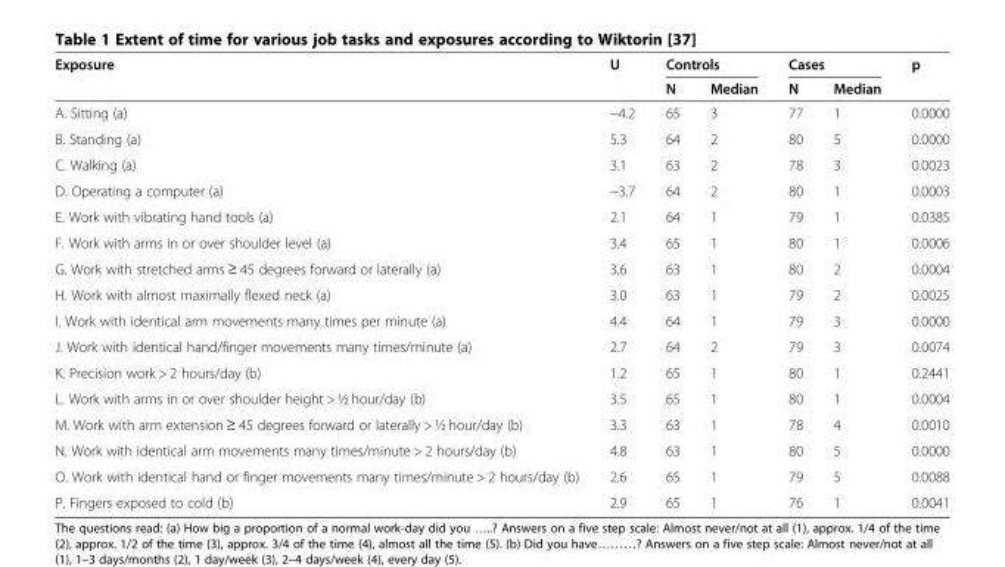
<table><thead><tr><td rowspan="2">Exposure</td><td rowspan="2">U</td><td colspan="2">Controls</td><td colspan="2">Cases</td><td rowspan="2">p</td></tr><tr><td>N</td><td>Median</td><td>N</td><td>Median</td></tr></thead><tbody><tr><td>A. Sitting (a)</td><td>−4.2</td><td>65</td><td>3</td><td>77</td><td>1</td><td>0.0000</td></tr><tr><td>B. Standing (a)</td><td>5.3</td><td>64</td><td>2</td><td>80</td><td>5</td><td>0.0000</td></tr><tr><td>C. Walking (a)</td><td>3.1</td><td>63</td><td>2</td><td>78</td><td>3</td><td>0.0023</td></tr><tr><td>D. Operating a computer (a)</td><td>−3.7</td><td>64</td><td>2</td><td>80</td><td>1</td><td>0.0003</td></tr><tr><td>E. Work with vibrating hand tools (a)</td><td>2.1</td><td>64</td><td>1</td><td>79</td><td>1</td><td>0.0385</td></tr><tr><td>F. Work with arms in or over shoulder level (a)</td><td>3.4</td><td>65</td><td>1</td><td>80</td><td>1</td><td>0.0006</td></tr><tr><td>G. Work with stretched arms ≥ 45 degrees forward or laterally (a)</td><td>3.6</td><td>63</td><td>1</td><td>80</td><td>2</td><td>0.0004</td></tr><tr><td>H. Work with almost maximally flexed neck (a)</td><td>3.0</td><td>63</td><td>1</td><td>79</td><td>2</td><td>0.0025</td></tr><tr><td>I. Work with identical arm movements many times per minute (a)</td><td>4.4</td><td>64</td><td>1</td><td>79</td><td>3</td><td>0.0000</td></tr><tr><td>J. Work with identical hand/finger movements many times/minute (a)</td><td>2.7</td><td>64</td><td>2</td><td>79</td><td>3</td><td>0.0074</td></tr><tr><td>K. Precision work &gt; 2 hours/day (b)</td><td>1.2</td><td>65</td><td>1</td><td>80</td><td>1</td><td>0.2441</td></tr><tr><td>L. Work with arms in or over shoulder height &gt; ½ hour/day (b)</td><td>3.5</td><td>65</td><td>1</td><td>80</td><td>1</td><td>0.0004</td></tr><tr><td>M. Work with arm extension ≥ 45 degrees forward or laterally &gt; ½ hour/day (b)</td><td>3.3</td><td>63</td><td>1</td><td>78</td><td>4</td><td>0.0010</td></tr><tr><td>N. Work with identical arm movements many times/minute &gt; 2 hours/day (b)</td><td>4.8</td><td>63</td><td>1</td><td>80</td><td>5</td><td>0.0000</td></tr><tr><td>O. Work with identical hand or finger movements many times/minute &gt; 2 hours/day (b)</td><td>2.6</td><td>65</td><td>1</td><td>79</td><td>5</td><td>0.0088</td></tr><tr><td>P. Fingers exposed to cold (b)</td><td>2.9</td><td>65</td><td>1</td><td>76</td><td>1</td><td>0.0041</td></tr></tbody></table>